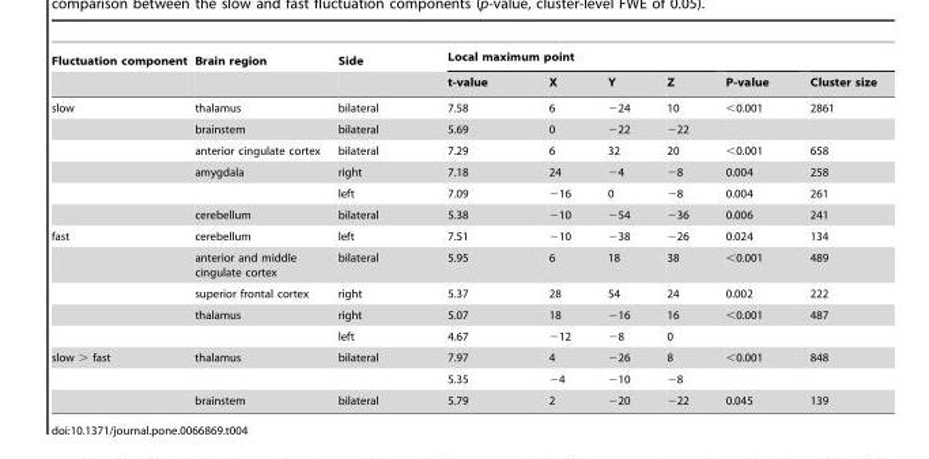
<table><thead><tr><td rowspan="2">Fluctuation component</td><td rowspan="2">Brain region</td><td rowspan="2">Side</td><td colspan="4">Local maximum point</td><td rowspan="2">P-value</td><td rowspan="2">Cluster size</td></tr><tr><td>t-value</td><td>X</td><td>Y</td><td>Z</td></tr></thead><tbody><tr><td rowspan="6">slow</td><td>thalamus</td><td>bilateral</td><td>7.58</td><td>6</td><td>−24</td><td>10</td><td>&lt;0.001</td><td>2861</td></tr><tr><td>brainstem</td><td>bilateral</td><td>5.69</td><td>0</td><td>−22</td><td>−22</td><td></td><td></td></tr><tr><td>anterior cingulate cortex</td><td>bilateral</td><td>7.29</td><td>6</td><td>32</td><td>20</td><td>&lt;0.001</td><td>658</td></tr><tr><td>amygdala</td><td>right</td><td>7.18</td><td>24</td><td>−4</td><td>−8</td><td>0.004</td><td>258</td></tr><tr><td></td><td>left</td><td>7.09</td><td>−16</td><td>0</td><td>−8</td><td>0.004</td><td>261</td></tr><tr><td>cerebellum</td><td>bilateral</td><td>5.38</td><td>−10</td><td>−54</td><td>−36</td><td>0.006</td><td>241</td></tr><tr><td rowspan="5">fast</td><td>cerebellum</td><td>left</td><td>7.51</td><td>−10</td><td>−38</td><td>−26</td><td>0.024</td><td>134</td></tr><tr><td>anterior and middle cingulate cortex</td><td>bilateral</td><td>5.95</td><td>6</td><td>18</td><td>38</td><td>&lt;0.001</td><td>489</td></tr><tr><td>superior frontal cortex</td><td>right</td><td>5.37</td><td>28</td><td>54</td><td>24</td><td>0.002</td><td>222</td></tr><tr><td>thalamus</td><td>right</td><td>5.07</td><td>18</td><td>−16</td><td>16</td><td>&lt;0.001</td><td>487</td></tr><tr><td></td><td>left</td><td>4.67</td><td>−12</td><td>−8</td><td>0</td><td></td><td></td></tr><tr><td rowspan="3">slow &gt; fast</td><td>thalamus</td><td>bilateral</td><td>7.97</td><td>4</td><td>−26</td><td>8</td><td>&lt;0.001</td><td>848</td></tr><tr><td></td><td></td><td>5.35</td><td>−4</td><td>−10</td><td>−8</td><td></td><td></td></tr><tr><td>brainstem</td><td>bilateral</td><td>5.79</td><td>2</td><td>−20</td><td>−22</td><td>0.045</td><td>139</td></tr></tbody></table>